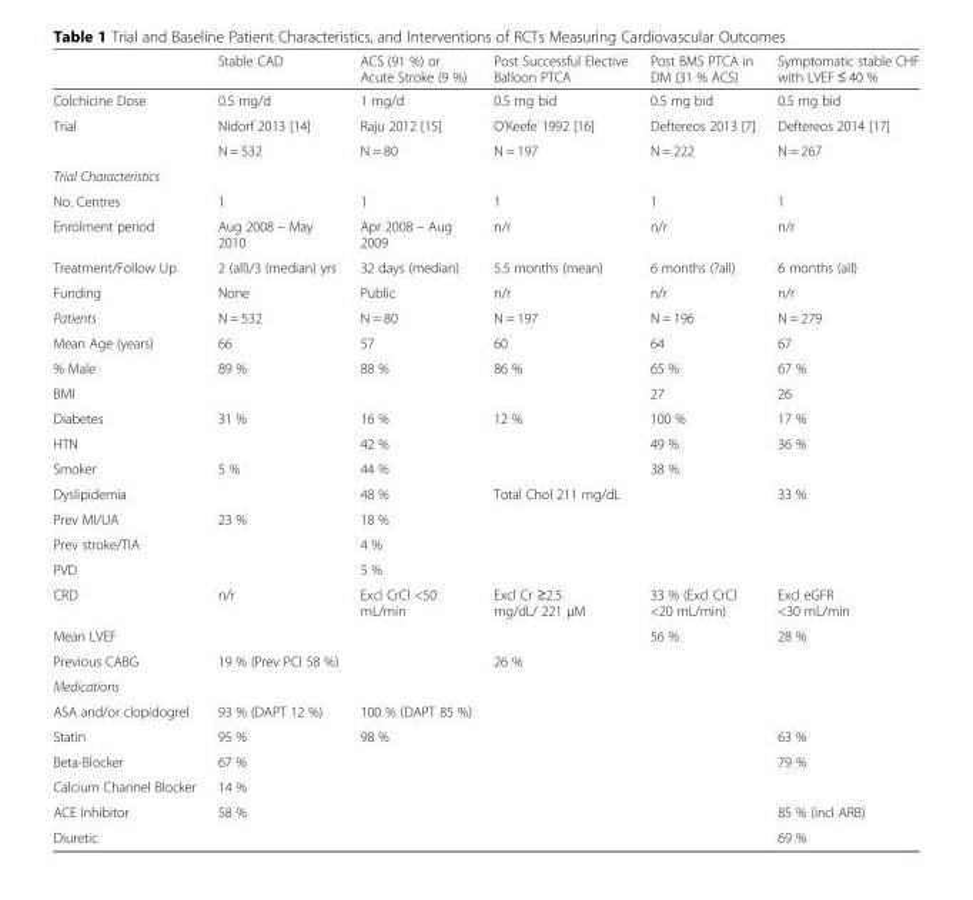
<table><thead><tr><td></td><td>Stable CAD</td><td>ACS (91 %) or Acute Stroke (9 %)</td><td>Post Successful Elective Balloon PTCA</td><td>Post BMS PTCA in DM (31 % ACS)</td><td>Symptomatic stable CHF with LVEF ≤ 40 %</td></tr></thead><tbody><tr><td>Colchicine Dose</td><td>0.5 mg/d</td><td>1 mg/d</td><td>0.5 mg bid</td><td>0.5 mg bid</td><td>0.5 mg bid</td></tr><tr><td rowspan="2">Trial</td><td>Nidorf 2013 [14]</td><td>Raju 2012 [15]</td><td>O’Keefe 1992 [16]</td><td>Deftereos 2013 [7]</td><td>Deftereos 2014 [17]</td></tr><tr><td>N = 532</td><td>N = 80</td><td>N = 197</td><td>N = 222</td><td>N = 267</td></tr><tr><td colspan="6">Trial Characteristics</td></tr><tr><td>No. Centres</td><td>1</td><td>1</td><td>1</td><td>1</td><td>1</td></tr><tr><td>Enrolment period</td><td>Aug 2008 – May 2010</td><td>Apr 2008 – Aug 2009</td><td>n/r</td><td>n/r</td><td>n/r</td></tr><tr><td>Treatment/Follow Up</td><td>2 (all)/3 (median) yrs</td><td>32 days (median)</td><td>5.5 months (mean)</td><td>6 months (?all)</td><td>6 months (all)</td></tr><tr><td>Funding</td><td>None</td><td>Public</td><td>n/r</td><td>n/r</td><td>n/r</td></tr><tr><td>Patients</td><td>N = 532</td><td>N = 80</td><td>N = 197</td><td>N = 196</td><td>N = 279</td></tr><tr><td>Mean Age (years)</td><td>66</td><td>57</td><td>60</td><td>64</td><td>67</td></tr><tr><td>% Male</td><td>89 %</td><td>88 %</td><td>86 %</td><td>65 %</td><td>67 %</td></tr><tr><td>BMI</td><td></td><td></td><td></td><td>27</td><td>26</td></tr><tr><td>Diabetes</td><td>31 %</td><td>16 %</td><td>12 %</td><td>100 %</td><td>17 %</td></tr><tr><td>HTN</td><td></td><td>42 %</td><td></td><td>49 %</td><td>36 %</td></tr><tr><td>Smoker</td><td>5 %</td><td>44 %</td><td></td><td>38 %</td><td></td></tr><tr><td>Dyslipidemia</td><td></td><td>48 %</td><td>Total Chol 211 mg/dL</td><td></td><td>33 %</td></tr><tr><td>Prev MI/UA</td><td>23 %</td><td>18 %</td><td></td><td></td><td></td></tr><tr><td>Prev stroke/TIA</td><td></td><td>4 %</td><td></td><td></td><td></td></tr><tr><td>PVD</td><td></td><td>5 %</td><td></td><td></td><td></td></tr><tr><td>CRD</td><td>n/r</td><td>Excl CrCl &lt;50 mL/min</td><td>Excl Cr ≥2.5 mg/dL/ 221 μM</td><td>33 % (Excl CrCl &lt;20 mL/min)</td><td>Excl eGFR &lt;30 mL/min</td></tr><tr><td>Mean LVEF</td><td></td><td></td><td></td><td>56 %</td><td>28 %</td></tr><tr><td>Previous CABG</td><td>19 % (Prev PCI 58 %)</td><td></td><td>26 %</td><td></td><td></td></tr><tr><td colspan="6">Medications</td></tr><tr><td>ASA and/or clopidogrel</td><td>93 % (DAPT 12 %)</td><td>100 % (DAPT 85 %)</td><td></td><td></td><td></td></tr><tr><td>Statin</td><td>95 %</td><td>98 %</td><td></td><td></td><td>63 %</td></tr><tr><td>Beta-Blocker</td><td>67 %</td><td></td><td></td><td></td><td>79 %</td></tr><tr><td>Calcium Channel Blocker</td><td>14 %</td><td></td><td></td><td></td><td></td></tr><tr><td>ACE Inhibitor</td><td>58 %</td><td></td><td></td><td></td><td>85 % (incl ARB)</td></tr><tr><td>Diuretic</td><td></td><td></td><td></td><td></td><td>69 %</td></tr></tbody></table>